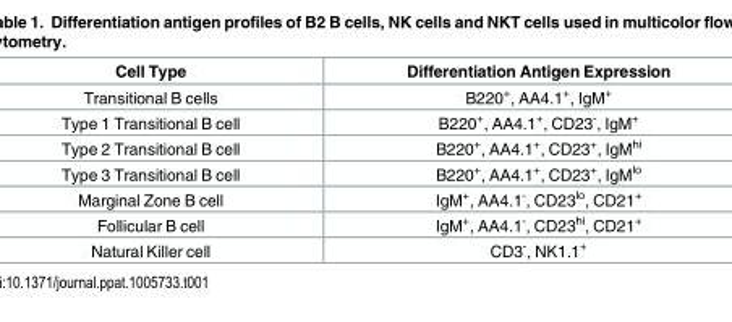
<table><thead><tr><td>Cell Type</td><td>Differentiation Antigen Expression</td></tr></thead><tbody><tr><td>Transitional B cells</td><td>B220<sup>+</sup>, AA4.1<sup>+</sup>, IgM<sup>+</sup></td></tr><tr><td>Type 1 Transitional B cell</td><td>B220<sup>+</sup>, AA4.1<sup>+</sup>, CD23<sup>-</sup>, IgM<sup>+</sup></td></tr><tr><td>Type 2 Transitional B cell</td><td>B220<sup>+</sup>, AA4.1<sup>+</sup>, CD23<sup>+</sup>, IgM<sup>hi</sup></td></tr><tr><td>Type 3 Transitional B cell</td><td>B220<sup>+</sup>, AA4.1<sup>+</sup>, CD23<sup>+</sup>, IgM<sup>lo</sup></td></tr><tr><td>Marginal Zone B cell</td><td>IgM<sup>+</sup>, AA4.1<sup>-</sup>, CD23<sup>lo</sup>, CD21<sup>+</sup></td></tr><tr><td>Follicular B cell</td><td>IgM<sup>+</sup>, AA4.1<sup>-</sup>, CD23<sup>hi</sup>, CD21<sup>+</sup></td></tr><tr><td>Natural Killer cell</td><td>CD3<sup>-</sup>, NK1.1<sup>+</sup></td></tr></tbody></table>